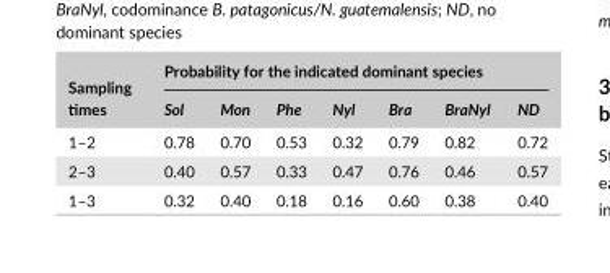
<table><thead><tr><td rowspan="2">Sampling times</td><td colspan="7">Probability for the indicated dominant species</td></tr><tr><td>Sol</td><td>Mon</td><td>Phe</td><td>Nyl</td><td>Bra</td><td>BraNyl</td><td>ND</td></tr></thead><tbody><tr><td>1–2</td><td>0.78</td><td>0.70</td><td>0.53</td><td>0.32</td><td>0.79</td><td>0.82</td><td>0.72</td></tr><tr><td>2–3</td><td>0.40</td><td>0.57</td><td>0.33</td><td>0.47</td><td>0.76</td><td>0.46</td><td>0.57</td></tr><tr><td>1–3</td><td>0.32</td><td>0.40</td><td>0.18</td><td>0.16</td><td>0.60</td><td>0.38</td><td>0.40</td></tr></tbody></table>